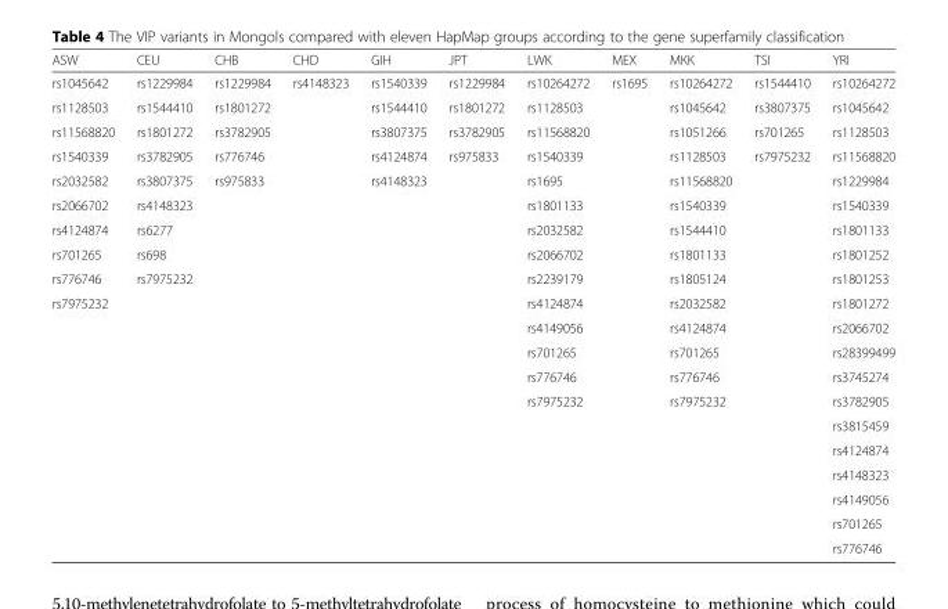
<table><thead><tr><td>ASW</td><td>CEU</td><td>CHB</td><td>CHD</td><td>GIH</td><td>JPT</td><td>LWK</td><td>MEX</td><td>MKK</td><td>TSI</td><td>YRI</td></tr></thead><tbody><tr><td>rs1045642</td><td>rs1229984</td><td>rs1229984</td><td>rs4148323</td><td>rs1540339</td><td>rs1229984</td><td>rs10264272</td><td>rs1695</td><td>rs10264272</td><td>rs1544410</td><td>rs10264272</td></tr><tr><td>rs1128503</td><td>rs1544410</td><td>rs1801272</td><td></td><td>rs1544410</td><td>rs1801272</td><td>rs1128503</td><td></td><td>rs1045642</td><td>rs3807375</td><td>rs1045642</td></tr><tr><td>rs11568820</td><td>rs1801272</td><td>rs3782905</td><td></td><td>rs3807375</td><td>rs3782905</td><td>rs11568820</td><td></td><td>rs1051266</td><td>rs701265</td><td>rs1128503</td></tr><tr><td>rs1540339</td><td>rs3782905</td><td>rs776746</td><td></td><td>rs4124874</td><td>rs975833</td><td>rs1540339</td><td></td><td>rs1128503</td><td>rs7975232</td><td>rs11568820</td></tr><tr><td>rs2032582</td><td>rs3807375</td><td>rs975833</td><td></td><td>rs4148323</td><td></td><td>rs1695</td><td></td><td>rs11568820</td><td></td><td>rs1229984</td></tr><tr><td>rs2066702</td><td>rs4148323</td><td></td><td></td><td></td><td></td><td>rs1801133</td><td></td><td>rs1540339</td><td></td><td>rs1540339</td></tr><tr><td>rs4124874</td><td>rs6277</td><td></td><td></td><td></td><td></td><td>rs2032582</td><td></td><td>rs1544410</td><td></td><td>rs1801133</td></tr><tr><td>rs701265</td><td>rs698</td><td></td><td></td><td></td><td></td><td>rs2066702</td><td></td><td>rs1801133</td><td></td><td>rs1801252</td></tr><tr><td>rs776746</td><td>rs7975232</td><td></td><td></td><td></td><td></td><td>rs2239179</td><td></td><td>rs1805124</td><td></td><td>rs1801253</td></tr><tr><td rowspan="11">rs7975232</td><td></td><td></td><td></td><td></td><td></td><td>rs4124874</td><td></td><td>rs2032582</td><td></td><td>rs1801272</td></tr><tr><td></td><td></td><td></td><td></td><td></td><td>rs4149056</td><td></td><td>rs4124874</td><td></td><td>rs2066702</td></tr><tr><td></td><td></td><td></td><td></td><td></td><td>rs701265</td><td></td><td>rs701265</td><td></td><td>rs28399499</td></tr><tr><td></td><td></td><td></td><td></td><td></td><td>rs776746</td><td></td><td>rs776746</td><td></td><td>rs3745274</td></tr><tr><td></td><td></td><td></td><td></td><td></td><td>rs7975232</td><td></td><td>rs7975232</td><td></td><td>rs3782905</td></tr><tr><td></td><td></td><td></td><td></td><td></td><td></td><td></td><td></td><td></td><td>rs3815459</td></tr><tr><td></td><td></td><td></td><td></td><td></td><td></td><td></td><td></td><td></td><td>rs4124874</td></tr><tr><td></td><td></td><td></td><td></td><td></td><td></td><td></td><td></td><td></td><td>rs4148323</td></tr><tr><td></td><td></td><td></td><td></td><td></td><td></td><td></td><td></td><td></td><td>rs4149056</td></tr><tr><td></td><td></td><td></td><td></td><td></td><td></td><td></td><td></td><td></td><td>rs701265</td></tr><tr><td></td><td></td><td></td><td></td><td></td><td></td><td></td><td></td><td></td><td>rs776746</td></tr></tbody></table>